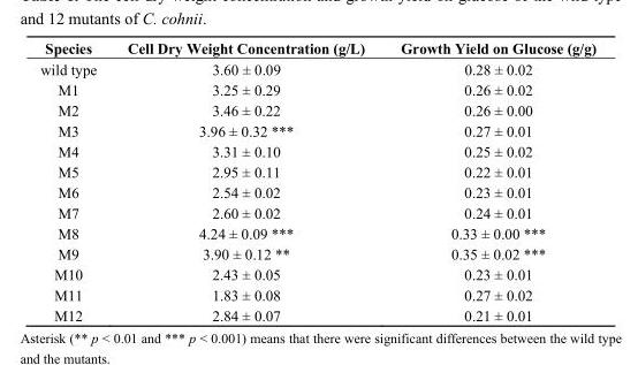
<table><thead><tr><td>Species</td><td>Cell Dry Weight Concentration (g/L)</td><td>Growth Yield on Glucose (g/g)</td></tr></thead><tbody><tr><td>wild type</td><td>3.60 ± 0.09</td><td>0.28 ± 0.02</td></tr><tr><td>M1</td><td>3.25 ± 0.29</td><td>0.26 ± 0.02</td></tr><tr><td>M2</td><td>3.46 ± 0.22</td><td>0.26 ± 0.00</td></tr><tr><td>M3</td><td>3.96 ± 0.32 ***</td><td>0.27 ± 0.01</td></tr><tr><td>M4</td><td>3.31 ± 0.10</td><td>0.25 ± 0.02</td></tr><tr><td>M5</td><td>2.95 ± 0.11</td><td>0.22 ± 0.01</td></tr><tr><td>M6</td><td>2.54 ± 0.02</td><td>0.23 ± 0.01</td></tr><tr><td>M7</td><td>2.60 ± 0.02</td><td>0.24 ± 0.01</td></tr><tr><td>M8</td><td>4.24 ± 0.09 ***</td><td>0.33 ± 0.00 ***</td></tr><tr><td>M9</td><td>3.90 ± 0.12 **</td><td>0.35 ± 0.02 ***</td></tr><tr><td>M10</td><td>2.43 ± 0.05</td><td>0.23 ± 0.01</td></tr><tr><td>M11</td><td>1.83 ± 0.08</td><td>0.27 ± 0.02</td></tr><tr><td>M12</td><td>2.84 ± 0.07</td><td>0.21 ± 0.01</td></tr></tbody></table>